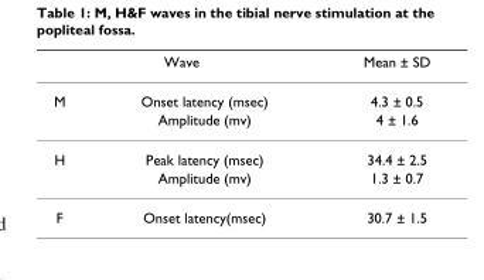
<table><thead><tr><td colspan="2">Wave</td><td rowspan="2">Mean ± SD 4.3 ± 0.5</td></tr><tr><td>M</td><td>Onset latency (msec)</td></tr></thead><tbody><tr><td></td><td>Amplitude (mv)</td><td>4 ± 1.6</td></tr><tr><td rowspan="2">H</td><td>Peak latency (msec)</td><td>34.4 ± 2.5</td></tr><tr><td>Amplitude (mv)</td><td>1.3 ± 0.7</td></tr><tr><td>F</td><td>Onset latency(msec)</td><td>30.7 ± 1.5</td></tr></tbody></table>